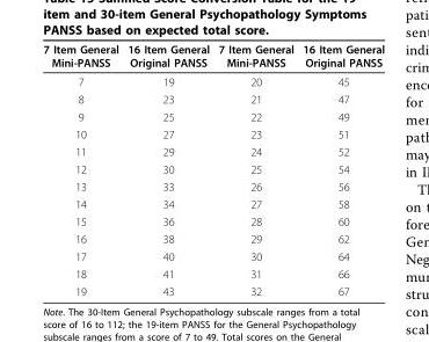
<table><thead><tr><td>7 Item General Mini-PANSS</td><td>16 Item General Original PANSS</td><td>7 Item General Mini-PANSS</td><td>16 Item General Original PANSS</td></tr></thead><tbody><tr><td>7</td><td>19</td><td>20</td><td>45</td></tr><tr><td>8</td><td>23</td><td>21</td><td>47</td></tr><tr><td>9</td><td>25</td><td>22</td><td>49</td></tr><tr><td>10</td><td>27</td><td>23</td><td>51</td></tr><tr><td>11</td><td>29</td><td>24</td><td>52</td></tr><tr><td>12</td><td>30</td><td>25</td><td>54</td></tr><tr><td>13</td><td>33</td><td>26</td><td>56</td></tr><tr><td>14</td><td>34</td><td>27</td><td>58</td></tr><tr><td>15</td><td>36</td><td>28</td><td>60</td></tr><tr><td>16</td><td>38</td><td>29</td><td>62</td></tr><tr><td>17</td><td>40</td><td>30</td><td>64</td></tr><tr><td>18</td><td>41</td><td>31</td><td>66</td></tr><tr><td>19</td><td>43</td><td>32</td><td>67</td></tr></tbody></table>